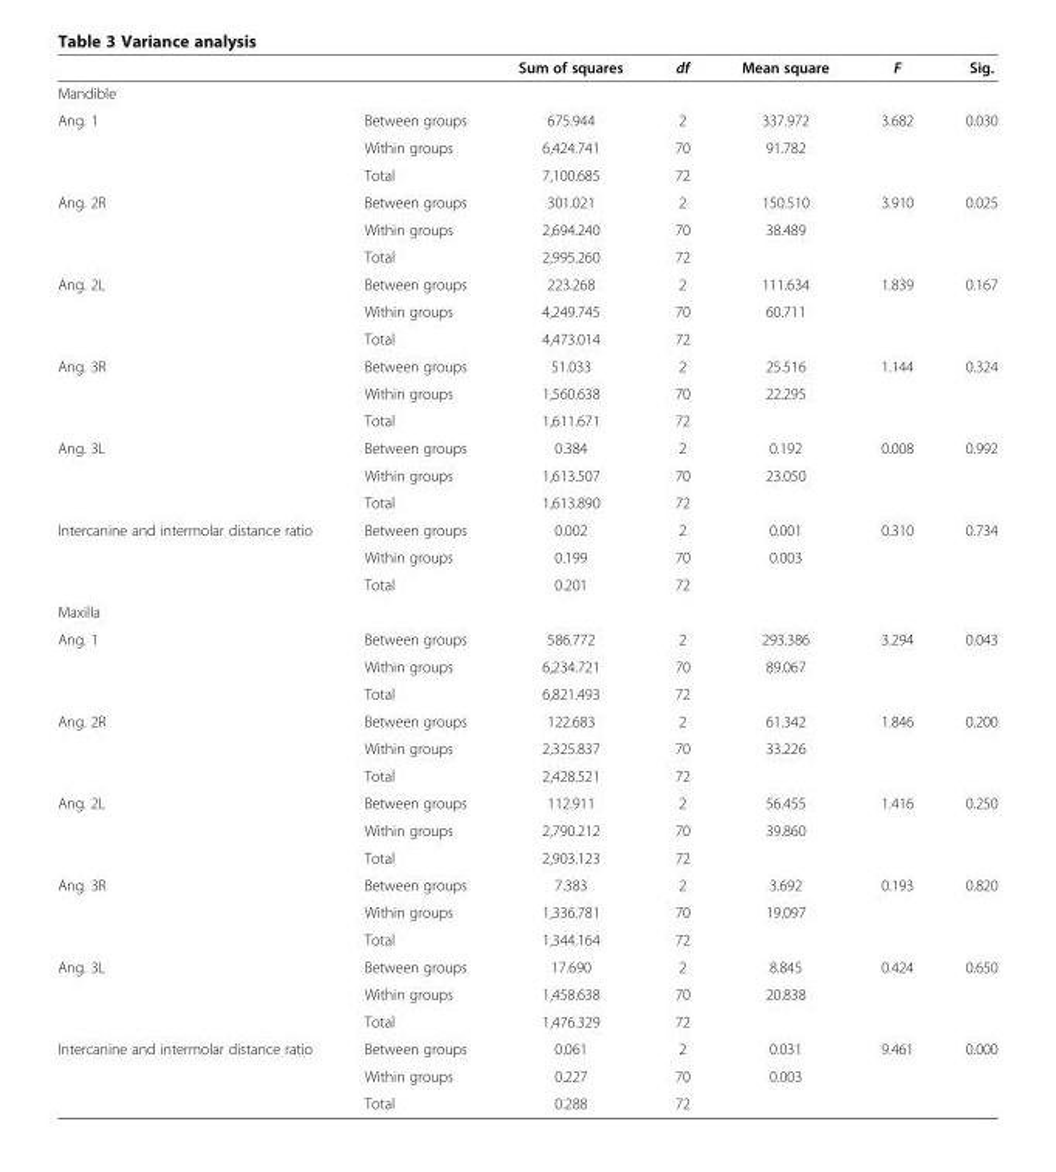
<table><thead><tr><td></td><td></td><td>Sum of squares</td><td>df</td><td>Mean square</td><td>F</td><td>Sig.</td></tr></thead><tbody><tr><td colspan="7">Mandible</td></tr><tr><td rowspan="3">Ang. 1</td><td>Between groups</td><td>675.944</td><td>2</td><td>337.972</td><td>3.682</td><td>0.030</td></tr><tr><td>Within groups</td><td>6,424.741</td><td>70</td><td>91.782</td><td></td><td></td></tr><tr><td>Total</td><td>7,100.685</td><td>72</td><td></td><td></td><td></td></tr><tr><td rowspan="3">Ang. 2R</td><td>Between groups</td><td>301.021</td><td>2</td><td>150.510</td><td>3.910</td><td>0.025</td></tr><tr><td>Within groups</td><td>2,694.240</td><td>70</td><td>38.489</td><td></td><td></td></tr><tr><td>Total</td><td>2,995.260</td><td>72</td><td></td><td></td><td></td></tr><tr><td rowspan="3">Ang. 2L</td><td>Between groups</td><td>223.268</td><td>2</td><td>111.634</td><td>1.839</td><td>0.167</td></tr><tr><td>Within groups</td><td>4,249.745</td><td>70</td><td>60.711</td><td></td><td></td></tr><tr><td>Total</td><td>4,473.014</td><td>72</td><td></td><td></td><td></td></tr><tr><td rowspan="3">Ang. 3R</td><td>Between groups</td><td>51.033</td><td>2</td><td>25.516</td><td>1.144</td><td>0.324</td></tr><tr><td>Within groups</td><td>1,560.638</td><td>70</td><td>22.295</td><td></td><td></td></tr><tr><td>Total</td><td>1,611.671</td><td>72</td><td></td><td></td><td></td></tr><tr><td rowspan="3">Ang. 3L</td><td>Between groups</td><td>0.384</td><td>2</td><td>0.192</td><td>0.008</td><td>0.992</td></tr><tr><td>Within groups</td><td>1,613.507</td><td>70</td><td>23.050</td><td></td><td></td></tr><tr><td>Total</td><td>1,613.890</td><td>72</td><td></td><td></td><td></td></tr><tr><td rowspan="3">Intercanine and intermolar distance ratio</td><td>Between groups</td><td>0.002</td><td>2</td><td>0.001</td><td>0.310</td><td>0.734</td></tr><tr><td>Within groups</td><td>0.199</td><td>70</td><td>0.003</td><td></td><td></td></tr><tr><td>Total</td><td>0.201</td><td>72</td><td></td><td></td><td></td></tr><tr><td colspan="7">Maxilla</td></tr><tr><td rowspan="3">Ang. 1</td><td>Between groups</td><td>586.772</td><td>2</td><td>293.386</td><td>3.294</td><td>0.043</td></tr><tr><td>Within groups</td><td>6,234.721</td><td>70</td><td>89.067</td><td></td><td></td></tr><tr><td>Total</td><td>6,821.493</td><td>72</td><td></td><td></td><td></td></tr><tr><td rowspan="3">Ang. 2R</td><td>Between groups</td><td>122.683</td><td>2</td><td>61.342</td><td>1.846</td><td>0.200</td></tr><tr><td>Within groups</td><td>2,325.837</td><td>70</td><td>33.226</td><td></td><td></td></tr><tr><td>Total</td><td>2,428.521</td><td>72</td><td></td><td></td><td></td></tr><tr><td rowspan="3">Ang. 2L</td><td>Between groups</td><td>112.911</td><td>2</td><td>56.455</td><td>1.416</td><td>0.250</td></tr><tr><td>Within groups</td><td>2,790.212</td><td>70</td><td>39.860</td><td></td><td></td></tr><tr><td>Total</td><td>2,903.123</td><td>72</td><td></td><td></td><td></td></tr><tr><td rowspan="3">Ang. 3R</td><td>Between groups</td><td>7.383</td><td>2</td><td>3.692</td><td>0.193</td><td>0.820</td></tr><tr><td>Within groups</td><td>1,336.781</td><td>70</td><td>19.097</td><td></td><td></td></tr><tr><td>Total</td><td>1,344.164</td><td>72</td><td></td><td></td><td></td></tr><tr><td rowspan="3">Ang. 3L</td><td>Between groups</td><td>17.690</td><td>2</td><td>8.845</td><td>0.424</td><td>0.650</td></tr><tr><td>Within groups</td><td>1,458.638</td><td>70</td><td>20.838</td><td></td><td></td></tr><tr><td>Total</td><td>1,476.329</td><td>72</td><td></td><td></td><td></td></tr><tr><td rowspan="3">Intercanine and intermolar distance ratio</td><td>Between groups</td><td>0.061</td><td>2</td><td>0.031</td><td>9.461</td><td>0.000</td></tr><tr><td>Within groups</td><td>0.227</td><td>70</td><td>0.003</td><td></td><td></td></tr><tr><td>Total</td><td>0.288</td><td>72</td><td></td><td></td><td></td></tr></tbody></table>